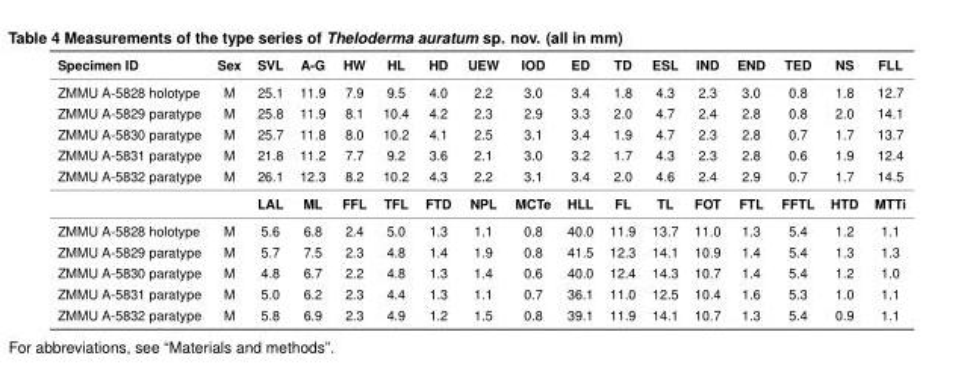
<table><tbody><tr><td>Specimen ID</td><td>Sex</td><td>SVL</td><td>A-G</td><td>HW</td><td>HL</td><td>HD</td><td>UEW</td><td>IOD</td><td>ED</td><td>TD</td><td>ESL</td><td>IND</td><td>END</td><td>TED</td><td>NS</td><td>FLL</td></tr><tr><td>ZMMU A-5828 holotype</td><td>M</td><td>25.1</td><td>11.9</td><td>7.9</td><td>9.5</td><td>4.0</td><td>2.2</td><td>3.0</td><td>3.4</td><td>1.8</td><td>4.3</td><td>2.3</td><td>3.0</td><td>0.8</td><td>1.8</td><td>12.7</td></tr><tr><td>ZMMU A-5829 paratype</td><td>M</td><td>25.8</td><td>11.9</td><td>8.1</td><td>10.4</td><td>4.2</td><td>2.3</td><td>2.9</td><td>3.3</td><td>2.0</td><td>4.7</td><td>2.4</td><td>2.8</td><td>0.8</td><td>2.0</td><td>14.1</td></tr><tr><td>ZMMU A-5830 paratype</td><td>M</td><td>25.7</td><td>11.8</td><td>8.0</td><td>10.2</td><td>4.1</td><td>2.5</td><td>3.1</td><td>3.4</td><td>1.9</td><td>4.7</td><td>2.3</td><td>2.8</td><td>0.7</td><td>1.7</td><td>13.7</td></tr><tr><td>ZMMU A-5831 paratype</td><td>M</td><td>21.8</td><td>11.2</td><td>7.7</td><td>9.2</td><td>3.6</td><td>2.1</td><td>3.0</td><td>3.2</td><td>1.7</td><td>4.3</td><td>2.3</td><td>2.8</td><td>0.6</td><td>1.9</td><td>12.4</td></tr><tr><td rowspan="2">ZMMU A-5832 paratype</td><td>M</td><td>26.1</td><td>12.3</td><td>8.2</td><td>10.2</td><td>4.3</td><td>2.2</td><td>3.1</td><td>3.4</td><td>2.0</td><td>4.6</td><td>2.4</td><td>2.9</td><td>0.7</td><td>1.7</td><td>14.5</td></tr><tr><td></td><td>LAL</td><td>ML</td><td>FFL</td><td>TFL</td><td>FTD</td><td>NPL</td><td>MCTe</td><td>HLL</td><td>FL</td><td>TL</td><td>FOT</td><td>FTL</td><td>FFTL</td><td>HTD</td><td>MTTi</td></tr><tr><td>ZMMU A-5828 holotype</td><td>M</td><td>5.6</td><td>6.8</td><td>2.4</td><td>5.0</td><td>1.3</td><td>1.1</td><td>0.8</td><td>40.0</td><td>11.9</td><td>13.7</td><td>11.0</td><td>1.3</td><td>5.4</td><td>1.2</td><td>1.1</td></tr><tr><td>ZMMU A-5829 paratype</td><td>M</td><td>5.7</td><td>7.5</td><td>2.3</td><td>4.8</td><td>1.4</td><td>1.9</td><td>0.8</td><td>41.5</td><td>12.3</td><td>14.1</td><td>10.9</td><td>1.4</td><td>5.4</td><td>1.3</td><td>1.3</td></tr><tr><td>ZMMU A-5830 paratype</td><td>M</td><td>4.8</td><td>6.7</td><td>2.2</td><td>4.8</td><td>1.3</td><td>1.4</td><td>0.6</td><td>40.0</td><td>12.4</td><td>14.3</td><td>10.7</td><td>1.4</td><td>5.4</td><td>1.2</td><td>1.0</td></tr><tr><td>ZMMU A-5831 paratype</td><td>M</td><td>5.0</td><td>6.2</td><td>2.3</td><td>4.4</td><td>1.3</td><td>1.1</td><td>0.7</td><td>36.1</td><td>11.0</td><td>12.5</td><td>10.4</td><td>1.6</td><td>5.3</td><td>1.0</td><td>1.1</td></tr><tr><td>ZMMU A-5832 paratype</td><td>M</td><td>5.8</td><td>6.9</td><td>2.3</td><td>4.9</td><td>1.2</td><td>1.5</td><td>0.8</td><td>39.1</td><td>11.9</td><td>14.1</td><td>10.7</td><td>1.3</td><td>5.4</td><td>0.9</td><td>1.1</td></tr></tbody></table>